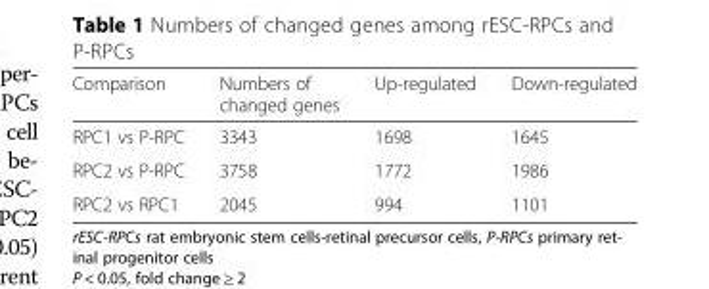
<table><thead><tr><td>Comparison</td><td>Numbers of changed genes</td><td>Up-regulated</td><td>Down-regulated</td></tr></thead><tbody><tr><td>RPC1 vs P-RPC</td><td>3343</td><td>1698</td><td>1645</td></tr><tr><td>RPC2 vs P-RPC</td><td>3758</td><td>1772</td><td>1986</td></tr><tr><td>RPC2 vs RPC1</td><td>2045</td><td>994</td><td>1101</td></tr></tbody></table>